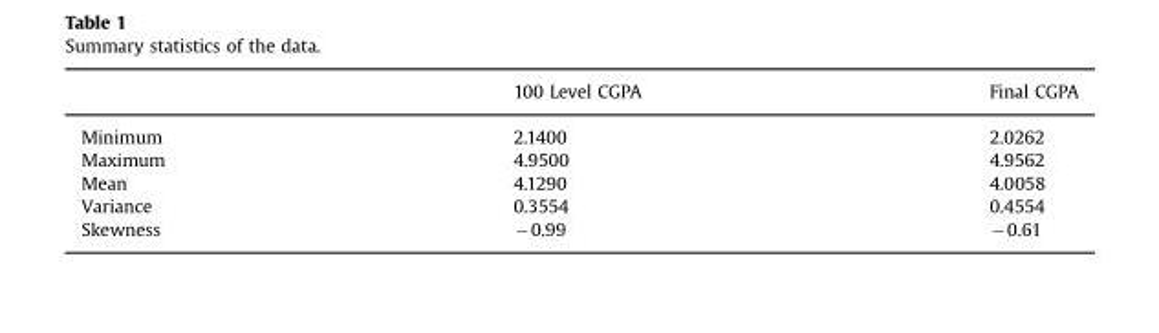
<table><thead><tr><td></td><td>100 Level CGPA</td><td>Final CGPA</td></tr></thead><tbody><tr><td>Minimum</td><td>2.1400</td><td>2.0262</td></tr><tr><td>Maximum</td><td>4.9500</td><td>4.9562</td></tr><tr><td>Mean</td><td>4.1290</td><td>4.0058</td></tr><tr><td>Variance</td><td>0.3554</td><td>0.4554</td></tr><tr><td>Skewness</td><td>−0.99</td><td>−0.61</td></tr></tbody></table>